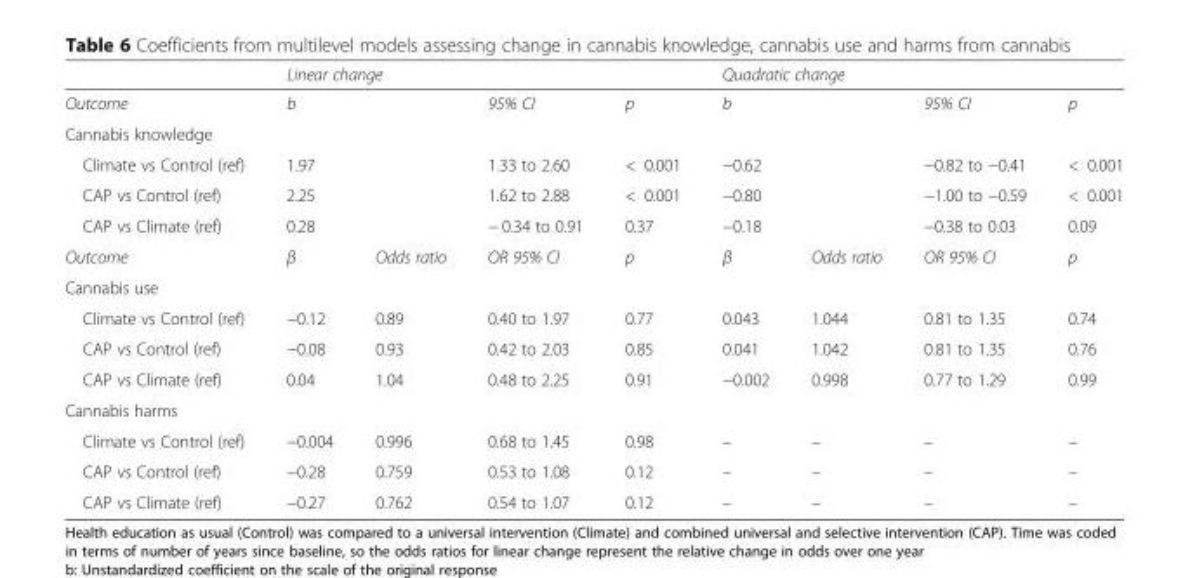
<table><thead><tr><td></td><td colspan="4">Linear change</td><td colspan="4">Quadratic change</td></tr></thead><tbody><tr><td>Outcome</td><td colspan="2">b</td><td>95% CI</td><td>p</td><td colspan="2">b</td><td>95% CI</td><td>p</td></tr><tr><td colspan="9">Cannabis knowledge</td></tr><tr><td>Climate vs Control (ref)</td><td colspan="2">1.97</td><td>1.33 to 2.60</td><td>&lt; 0.001</td><td colspan="2">−0.62</td><td>−0.82 to −0.41</td><td>&lt; 0.001</td></tr><tr><td>CAP vs Control (ref)</td><td colspan="2">2.25</td><td>1.62 to 2.88</td><td>&lt; 0.001</td><td colspan="2">−0.80</td><td>−1.00 to −0.59</td><td>&lt; 0.001</td></tr><tr><td>CAP vs Climate (ref)</td><td colspan="2">0.28</td><td>− 0.34 to 0.91</td><td>0.37</td><td colspan="2">−0.18</td><td>−0.38 to 0.03</td><td>0.09</td></tr><tr><td>Outcome</td><td>β</td><td>Odds ratio</td><td>OR 95% CI</td><td>p</td><td>β</td><td>Odds ratio</td><td>OR 95% CI</td><td>p</td></tr><tr><td colspan="9">Cannabis use</td></tr><tr><td>Climate vs Control (ref)</td><td>−0.12</td><td>0.89</td><td>0.40 to 1.97</td><td>0.77</td><td>0.043</td><td>1.044</td><td>0.81 to 1.35</td><td>0.74</td></tr><tr><td>CAP vs Control (ref)</td><td>−0.08</td><td>0.93</td><td>0.42 to 2.03</td><td>0.85</td><td>0.041</td><td>1.042</td><td>0.81 to 1.35</td><td>0.76</td></tr><tr><td>CAP vs Climate (ref)</td><td>0.04</td><td>1.04</td><td>0.48 to 2.25</td><td>0.91</td><td>−0.002</td><td>0.998</td><td>0.77 to 1.29</td><td>0.99</td></tr><tr><td colspan="9">Cannabis harms</td></tr><tr><td>Climate vs Control (ref)</td><td>−0.004</td><td>0.996</td><td>0.68 to 1.45</td><td>0.98</td><td>–</td><td>–</td><td>–</td><td>–</td></tr><tr><td>CAP vs Control (ref)</td><td>−0.28</td><td>0.759</td><td>0.53 to 1.08</td><td>0.12</td><td>–</td><td>–</td><td>–</td><td>–</td></tr><tr><td>CAP vs Climate (ref)</td><td>−0.27</td><td>0.762</td><td>0.54 to 1.07</td><td>0.12</td><td>–</td><td>–</td><td>–</td><td>–</td></tr></tbody></table>